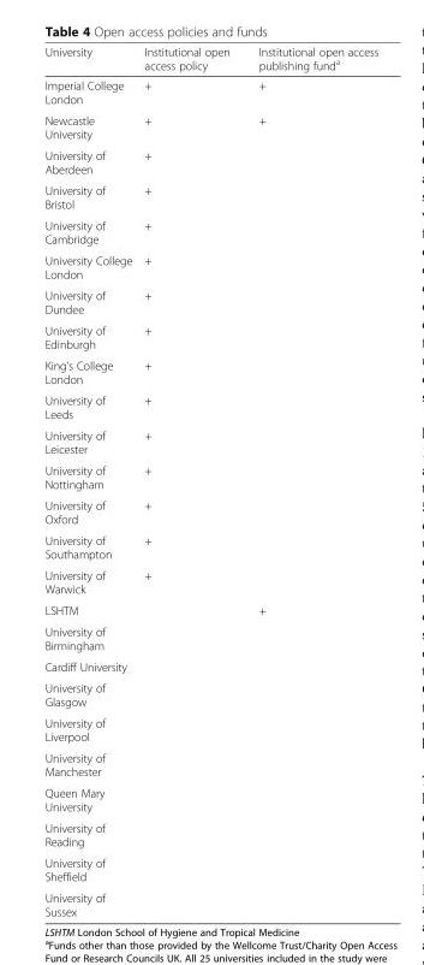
<table><thead><tr><td>University</td><td>Institutional open access policy</td><td>Institutional open access publishing fund<sup>a</sup></td></tr></thead><tbody><tr><td>Imperial College London</td><td>+</td><td>+</td></tr><tr><td>Newcastle University</td><td>+</td><td>+</td></tr><tr><td>University of Aberdeen</td><td>+</td><td></td></tr><tr><td>University of Bristol</td><td>+</td><td></td></tr><tr><td>University of Cambridge</td><td>+</td><td></td></tr><tr><td>University College London</td><td>+</td><td></td></tr><tr><td>University of Dundee</td><td>+</td><td></td></tr><tr><td>University of Edinburgh</td><td>+</td><td></td></tr><tr><td>King’s College London</td><td>+</td><td></td></tr><tr><td>University of Leeds</td><td>+</td><td></td></tr><tr><td>University of Leicester</td><td>+</td><td></td></tr><tr><td>University of Nottingham</td><td>+</td><td></td></tr><tr><td>University of Oxford</td><td>+</td><td></td></tr><tr><td>University of Southampton</td><td>+</td><td></td></tr><tr><td>University of Warwick</td><td>+</td><td></td></tr><tr><td>LSHTM</td><td></td><td>+</td></tr><tr><td colspan="3">University of Birmingham</td></tr><tr><td colspan="3">Cardiff University</td></tr><tr><td colspan="3">University of Glasgow</td></tr><tr><td colspan="3">University of Liverpool</td></tr><tr><td colspan="3">University of Manchester</td></tr><tr><td colspan="3">Queen Mary University</td></tr><tr><td colspan="3">University of Reading</td></tr><tr><td colspan="3">University of Sheffield</td></tr><tr><td>University of Sussex</td><td></td><td></td></tr></tbody></table>